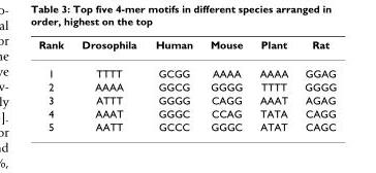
<table><thead><tr><td>Rank</td><td>Drosophila</td><td>Human</td><td>Mouse</td><td>Plant</td><td>Rat</td></tr></thead><tbody><tr><td>1</td><td>TTTT</td><td>GCGG</td><td>AAAA</td><td>AAAA</td><td>GGAG</td></tr><tr><td>2</td><td>AAAA</td><td>GGCG</td><td>GGGG</td><td>TTTT</td><td>GGGG</td></tr><tr><td>3</td><td>ATTT</td><td>GGGG</td><td>CAGG</td><td>AAAT</td><td>AGAG</td></tr><tr><td>4</td><td>AAAT</td><td>GGGC</td><td>CCAG</td><td>TATA</td><td>CAGG</td></tr><tr><td>5</td><td>AATT</td><td>GCCC</td><td>GGGC</td><td>ATAT</td><td>CAGC</td></tr></tbody></table>